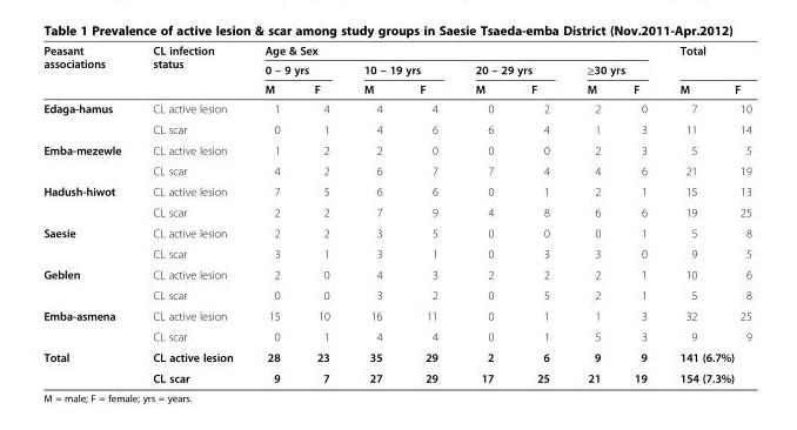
<table><thead><tr><td rowspan="3">Peasant associations</td><td rowspan="3">CL infection status</td><td colspan="8">Age &amp; Sex</td><td rowspan="2" colspan="2">Total</td></tr><tr><td colspan="2">0 – 9 yrs</td><td colspan="2">10 – 19 yrs</td><td colspan="2">20 – 29 yrs</td><td colspan="2">≥30 yrs</td></tr><tr><td>M</td><td>F</td><td>M</td><td>F</td><td>M</td><td>F</td><td>M</td><td>F</td><td>M</td><td>F</td></tr></thead><tbody><tr><td rowspan="2">Edaga-hamus</td><td>CL active lesion</td><td>1</td><td>4</td><td>4</td><td>4</td><td>0</td><td>2</td><td>2</td><td>0</td><td>7</td><td>10</td></tr><tr><td>CL scar</td><td>0</td><td>1</td><td>4</td><td>6</td><td>6</td><td>4</td><td>1</td><td>3</td><td>11</td><td>14</td></tr><tr><td rowspan="2">Emba-mezewle</td><td>CL active lesion</td><td>1</td><td>2</td><td>2</td><td>0</td><td>0</td><td>0</td><td>2</td><td>3</td><td>5</td><td>5</td></tr><tr><td>CL scar</td><td>4</td><td>2</td><td>6</td><td>7</td><td>7</td><td>4</td><td>4</td><td>6</td><td>21</td><td>19</td></tr><tr><td rowspan="2">Hadush-hiwot</td><td>CL active lesion</td><td>7</td><td>5</td><td>6</td><td>6</td><td>0</td><td>1</td><td>2</td><td>1</td><td>15</td><td>13</td></tr><tr><td>CL scar</td><td>2</td><td>2</td><td>7</td><td>9</td><td>4</td><td>8</td><td>6</td><td>6</td><td>19</td><td>25</td></tr><tr><td rowspan="2">Saesie</td><td>CL active lesion</td><td>2</td><td>2</td><td>3</td><td>5</td><td>0</td><td>0</td><td>0</td><td>1</td><td>5</td><td>8</td></tr><tr><td>CL scar</td><td>3</td><td>1</td><td>3</td><td>1</td><td>0</td><td>3</td><td>3</td><td>0</td><td>9</td><td>5</td></tr><tr><td rowspan="2">Geblen</td><td>CL active lesion</td><td>2</td><td>0</td><td>4</td><td>3</td><td>2</td><td>2</td><td>2</td><td>1</td><td>10</td><td>6</td></tr><tr><td>CL scar</td><td>0</td><td>0</td><td>3</td><td>2</td><td>0</td><td>5</td><td>2</td><td>1</td><td>5</td><td>8</td></tr><tr><td rowspan="2">Emba-asmena</td><td>CL active lesion</td><td>15</td><td>10</td><td>16</td><td>11</td><td>0</td><td>1</td><td>1</td><td>3</td><td>32</td><td>25</td></tr><tr><td>CL scar</td><td>0</td><td>1</td><td>4</td><td>4</td><td>0</td><td>1</td><td>5</td><td>3</td><td>9</td><td>9</td></tr><tr><td rowspan="2">Total</td><td>CL active lesion</td><td>28</td><td>23</td><td>35</td><td>29</td><td>2</td><td>6</td><td>9</td><td>9</td><td colspan="2">141 (6.7%)</td></tr><tr><td>CL scar</td><td>9</td><td>7</td><td>27</td><td>29</td><td>17</td><td>25</td><td>21</td><td>19</td><td colspan="2">154 (7.3%)</td></tr></tbody></table>